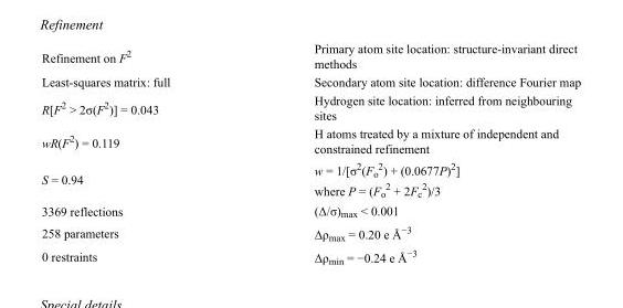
<table><tbody><tr><td>Refinement on F<sup>2</sup></td><td>Primary atom site location: structure-invariant direct methods</td></tr><tr><td>Least-squares matrix: full</td><td>Secondary atom site location: difference Fourier map</td></tr><tr><td>R[F<sup>2</sup> &gt; 2σ(F<sup>2</sup>)] = 0.043</td><td>Hydrogen site location: inferred from neighbouring sites</td></tr><tr><td>wR(F<sup>2</sup>) = 0.119</td><td>H atoms treated by a mixture of independent and constrained refinement</td></tr><tr><td>S = 0.94</td><td>w = 1/[σ<sup>2</sup>(F<sub>o</sub> <sup>2</sup>) + (0.0677P)<sup>2</sup>] where P = (F<sub>o</sub> <sup>2</sup> + 2F<sub>c</sub> <sup>2</sup>)/3</td></tr><tr><td>3369 reflections</td><td>(Δ/σ)<sub>max</sub> &lt; 0.001</td></tr><tr><td>258 parameters</td><td>Δρ<sub>max</sub> = 0.20 e Å<sup>−3</sup></td></tr><tr><td>0 restraints</td><td>Δρ<sub>min</sub> = −0.24 e Å<sup>−3</sup></td></tr></tbody></table>